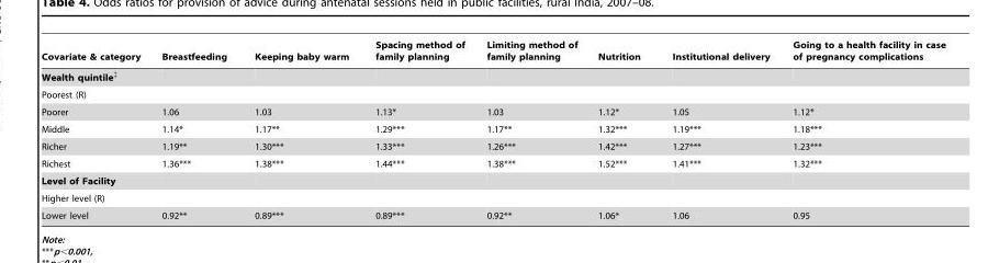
<table><thead><tr><td>Covariate &amp; category</td><td>Breastfeeding</td><td>Keeping baby warm</td><td>Spacing method of family planning</td><td>Limiting method of family planning</td><td>Nutrition</td><td>Institutional delivery</td><td>Going to a health facility in case of pregnancy complications</td></tr></thead><tbody><tr><td colspan="8">Wealth quintile‡</td></tr><tr><td colspan="8">Poorest (R)</td></tr><tr><td>Poorer</td><td>1.06</td><td>1.03</td><td>1.13*</td><td>1.03</td><td>1.12*</td><td>1.05</td><td>1.12*</td></tr><tr><td>Middle</td><td>1.14*</td><td>1.17**</td><td>1.29***</td><td>1.17**</td><td>1.32***</td><td>1.19***</td><td>1.18***</td></tr><tr><td>Richer</td><td>1.19**</td><td>1.30***</td><td>1.33***</td><td>1.26***</td><td>1.42***</td><td>1.27***</td><td>1.23***</td></tr><tr><td>Richest</td><td>1.36***</td><td>1.38***</td><td>1.44***</td><td>1.38***</td><td>1.52***</td><td>1.41***</td><td>1.32***</td></tr><tr><td colspan="8">Level of Facility</td></tr><tr><td colspan="8">Higher level (R)</td></tr><tr><td>Lower level</td><td>0.92**</td><td>0.89***</td><td>0.89***</td><td>0.92**</td><td>1.06*</td><td>1.06</td><td>0.95</td></tr></tbody></table>